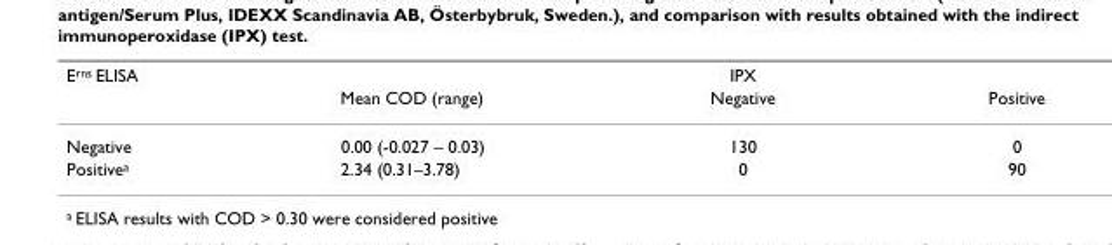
<table><thead><tr><td rowspan="2">E<sup>rns</sup> ELISA</td><td rowspan="2">Mean COD (range)</td><td rowspan="2">IPX Negative</td><td rowspan="2">Positive</td></tr><tr></tr></thead><tbody><tr><td>Negative</td><td>0.00 (-0.027 – 0.03)</td><td>130</td><td>0</td></tr><tr><td>Positive<sup>a</sup></td><td>2.34 (0.31–3.78)</td><td>0</td><td>90</td></tr></tbody></table>